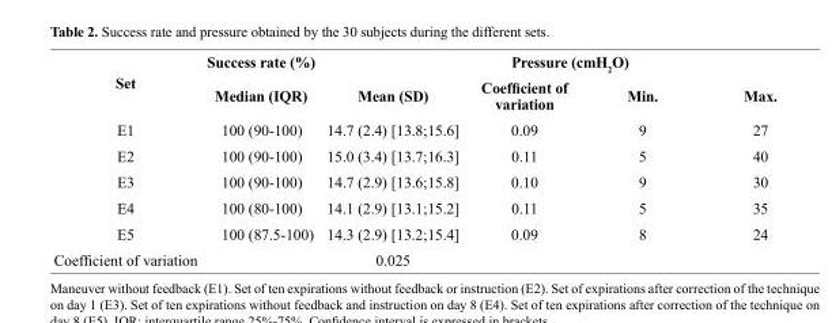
<table><thead><tr><td rowspan="2">Set</td><td rowspan="2">Success rate (%) Median (IQR)</td><td colspan="4">Pressure (cmH<sub>2</sub>O)</td></tr><tr><td>Mean (SD)</td><td>Coefficient of variation</td><td>Min.</td><td>Max.</td></tr></thead><tbody><tr><td>E1</td><td>100 (90-100)</td><td>14.7 (2.4) [13.8;15.6]</td><td>0.09</td><td>9</td><td>27</td></tr><tr><td>E2</td><td>100 (90-100)</td><td>15.0 (3.4) [13.7;16.3]</td><td>0.11</td><td>5</td><td>40</td></tr><tr><td>E3</td><td>100 (90-100)</td><td>14.7 (2.9) [13.6;15.8]</td><td>0.10</td><td>9</td><td>30</td></tr><tr><td>E4</td><td>100 (80-100)</td><td>14.1 (2.9) [13.1;15.2]</td><td>0.11</td><td>5</td><td>35</td></tr><tr><td>E5</td><td>100 (87.5-100)</td><td>14.3 (2.9) [13.2;15.4]</td><td>0.09</td><td>8</td><td>24</td></tr><tr><td>Coefficient of variation</td><td></td><td>0.025</td><td></td><td colspan="2"></td></tr></tbody></table>